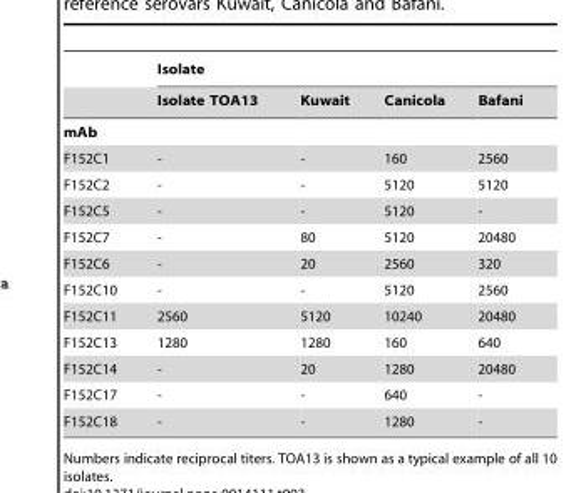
<table><thead><tr><td rowspan="2"></td><td colspan="4">Isolate</td></tr><tr><td>Isolate TOA13</td><td>Kuwait</td><td>Canicola</td><td>Bafani</td></tr></thead><tbody><tr><td colspan="5">mAb</td></tr><tr><td>F152C1</td><td>-</td><td>-</td><td>160</td><td>2560</td></tr><tr><td>F152C2</td><td>-</td><td>-</td><td>5120</td><td>5120</td></tr><tr><td>F152C5</td><td>-</td><td>-</td><td>5120</td><td>-</td></tr><tr><td>F152C7</td><td>-</td><td>80</td><td>5120</td><td>20480</td></tr><tr><td>F152C6</td><td>-</td><td>20</td><td>2560</td><td>320</td></tr><tr><td>F152C10</td><td>-</td><td>-</td><td>5120</td><td>2560</td></tr><tr><td>F152C11</td><td>2560</td><td>5120</td><td>10240</td><td>20480</td></tr><tr><td>F152C13</td><td>1280</td><td>1280</td><td>160</td><td>640</td></tr><tr><td>F152C14</td><td>-</td><td>20</td><td>1280</td><td>20480</td></tr><tr><td>F152C17</td><td>-</td><td>-</td><td>640</td><td>-</td></tr><tr><td>F152C18</td><td>-</td><td>-</td><td>1280</td><td>-</td></tr></tbody></table>